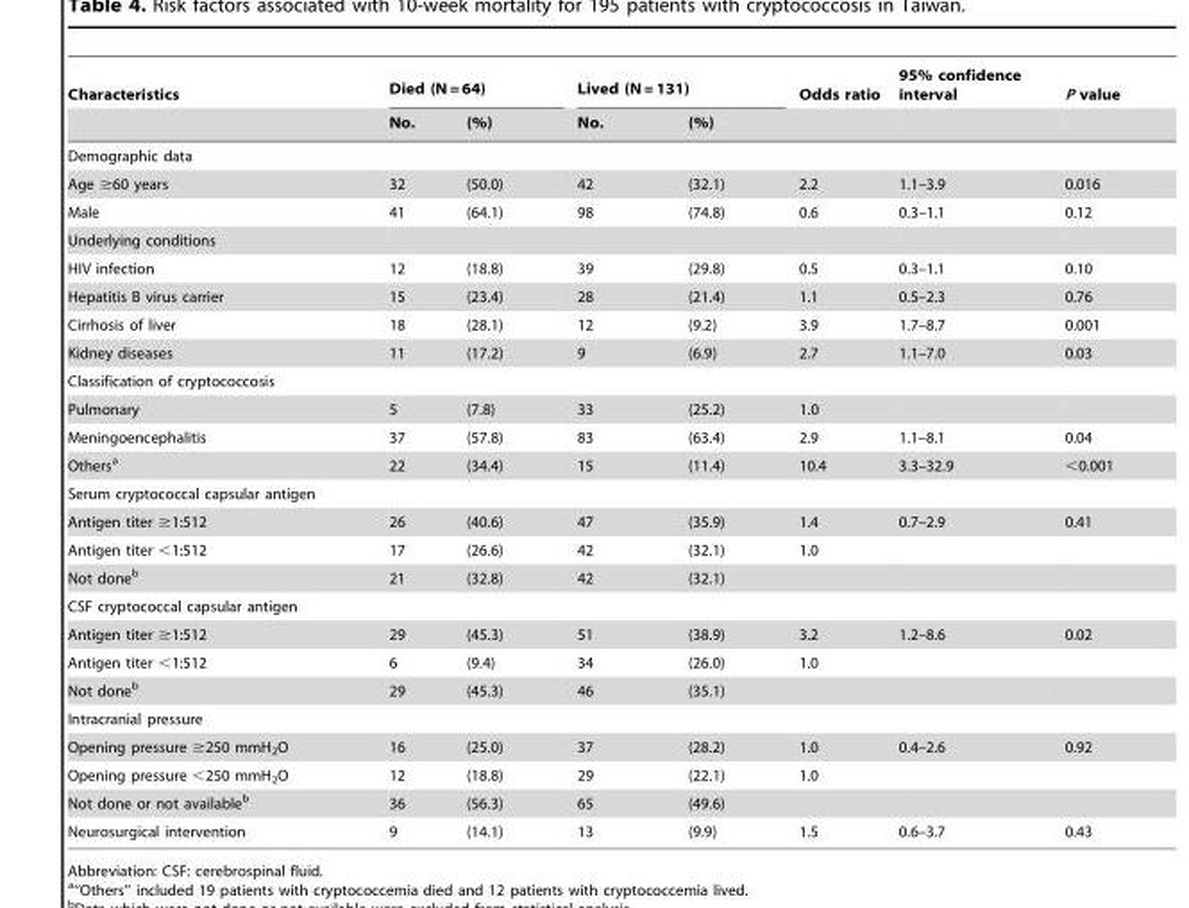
<table><thead><tr><td rowspan="2">Characteristics</td><td colspan="2">Died (N = 64)</td><td colspan="2">Lived (N = 131)</td><td rowspan="2">Odds ratio</td><td rowspan="2">95% confidence interval</td><td rowspan="2">P value</td></tr><tr><td>No.</td><td>(%)</td><td>No.</td><td>(%)</td></tr></thead><tbody><tr><td colspan="8">Demographic data</td></tr><tr><td>Age ≥60 years</td><td>32</td><td>(50.0)</td><td>42</td><td>(32.1)</td><td>2.2</td><td>1.1–3.9</td><td>0.016</td></tr><tr><td>Male</td><td>41</td><td>(64.1)</td><td>98</td><td>(74.8)</td><td>0.6</td><td>0.3–1.1</td><td>0.12</td></tr><tr><td colspan="8">Underlying conditions</td></tr><tr><td>HIV infection</td><td>12</td><td>(18.8)</td><td>39</td><td>(29.8)</td><td>0.5</td><td>0.3–1.1</td><td>0.10</td></tr><tr><td>Hepatitis B virus carrier</td><td>15</td><td>(23.4)</td><td>28</td><td>(21.4)</td><td>1.1</td><td>0.5–2.3</td><td>0.76</td></tr><tr><td>Cirrhosis of liver</td><td>18</td><td>(28.1)</td><td>12</td><td>(9.2)</td><td>3.9</td><td>1.7–8.7</td><td>0.001</td></tr><tr><td>Kidney diseases</td><td>11</td><td>(17.2)</td><td>9</td><td>(6.9)</td><td>2.7</td><td>1.1–7.0</td><td>0.03</td></tr><tr><td colspan="8">Classification of cryptococcosis</td></tr><tr><td>Pulmonary</td><td>5</td><td>(7.8)</td><td>33</td><td>(25.2)</td><td>1.0</td><td></td><td></td></tr><tr><td>Meningoencephalitis</td><td>37</td><td>(57.8)</td><td>83</td><td>(63.4)</td><td>2.9</td><td>1.1–8.1</td><td>0.04</td></tr><tr><td>Others<sup>a</sup></td><td>22</td><td>(34.4)</td><td>15</td><td>(11.4)</td><td>10.4</td><td>3.3–32.9</td><td>&lt;0.001</td></tr><tr><td colspan="8">Serum cryptococcal capsular antigen</td></tr><tr><td>Antigen titer ≥1:512</td><td>26</td><td>(40.6)</td><td>47</td><td>(35.9)</td><td>1.4</td><td>0.7–2.9</td><td>0.41</td></tr><tr><td>Antigen titer &lt;1:512</td><td>17</td><td>(26.6)</td><td>42</td><td>(32.1)</td><td>1.0</td><td></td><td></td></tr><tr><td>Not done<sup>b</sup></td><td>21</td><td>(32.8)</td><td>42</td><td>(32.1)</td><td></td><td></td><td></td></tr><tr><td colspan="8">CSF cryptococcal capsular antigen</td></tr><tr><td>Antigen titer ≥1:512</td><td>29</td><td>(45.3)</td><td>51</td><td>(38.9)</td><td>3.2</td><td>1.2–8.6</td><td>0.02</td></tr><tr><td>Antigen titer &lt;1:512</td><td>6</td><td>(9.4)</td><td>34</td><td>(26.0)</td><td>1.0</td><td></td><td></td></tr><tr><td>Not done<sup>b</sup></td><td>29</td><td>(45.3)</td><td>46</td><td>(35.1)</td><td></td><td></td><td></td></tr><tr><td colspan="8">Intracranial pressure</td></tr><tr><td>Opening pressure ≥250 mmH<sub>2</sub>O</td><td>16</td><td>(25.0)</td><td>37</td><td>(28.2)</td><td>1.0</td><td>0.4–2.6</td><td>0.92</td></tr><tr><td>Opening pressure &lt;250 mmH<sub>2</sub>O</td><td>12</td><td>(18.8)</td><td>29</td><td>(22.1)</td><td>1.0</td><td></td><td></td></tr><tr><td>Not done or not available<sup>b</sup></td><td>36</td><td>(56.3)</td><td>65</td><td>(49.6)</td><td></td><td></td><td></td></tr><tr><td>Neurosurgical intervention</td><td>9</td><td>(14.1)</td><td>13</td><td>(9.9)</td><td>1.5</td><td>0.6–3.7</td><td>0.43</td></tr></tbody></table>